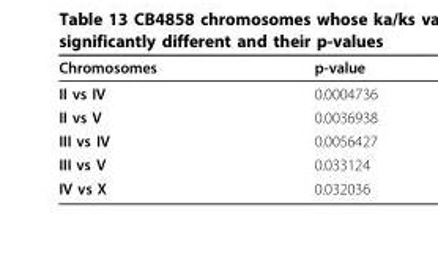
<table><thead><tr><td>Chromosomes</td><td>p-value</td></tr></thead><tbody><tr><td>II vs IV</td><td>0.0004736</td></tr><tr><td>II vs V</td><td>0.0036938</td></tr><tr><td>III vs IV</td><td>0.0056427</td></tr><tr><td>III vs V</td><td>0.033124</td></tr><tr><td>IV vs X</td><td>0.032036</td></tr></tbody></table>